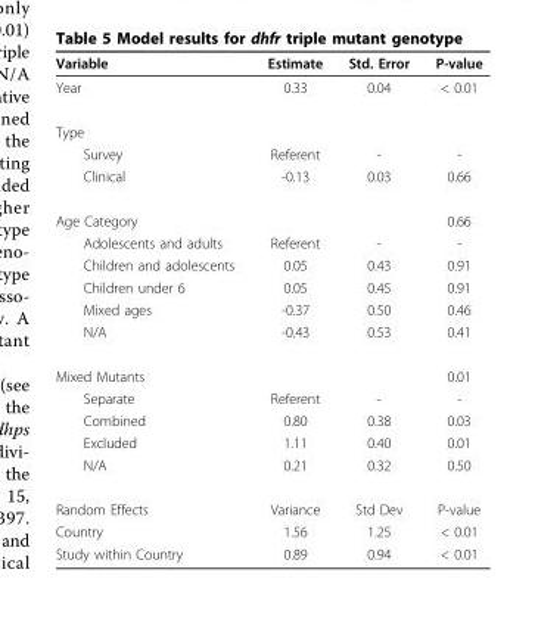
<table><thead><tr><td>Variable</td><td>Estimate</td><td>Std. Error</td><td>P-value</td></tr></thead><tbody><tr><td>Year</td><td>0.33</td><td>0.04</td><td>&lt; 0.01</td></tr><tr><td colspan="4">Type</td></tr><tr><td>Survey</td><td>Referent</td><td>-</td><td>-</td></tr><tr><td>Clinical</td><td>-0.13</td><td>0.03</td><td>0.66</td></tr><tr><td>Age Category</td><td></td><td></td><td>0.66</td></tr><tr><td>Adolescents and adults</td><td>Referent</td><td>-</td><td>-</td></tr><tr><td>Children and adolescents</td><td>0.05</td><td>0.43</td><td>0.91</td></tr><tr><td>Children under 6</td><td>0.05</td><td>0.45</td><td>0.91</td></tr><tr><td>Mixed ages</td><td>-0.37</td><td>0.50</td><td>0.46</td></tr><tr><td>N/A</td><td>-0.43</td><td>0.53</td><td>0.41</td></tr><tr><td>Mixed Mutants</td><td></td><td></td><td>0.01</td></tr><tr><td>Separate</td><td>Referent</td><td>-</td><td>-</td></tr><tr><td>Combined</td><td>0.80</td><td>0.38</td><td>0.03</td></tr><tr><td>Excluded</td><td>1.11</td><td>0.40</td><td>0.01</td></tr><tr><td>N/A</td><td>0.21</td><td>0.32</td><td>0.50</td></tr><tr><td>Random Effects</td><td>Variance</td><td>Std Dev</td><td>P-value</td></tr><tr><td>Country</td><td>1.56</td><td>1.25</td><td>&lt; 0.01</td></tr><tr><td>Study within Country</td><td>0.89</td><td>0.94</td><td>&lt; 0.01</td></tr></tbody></table>